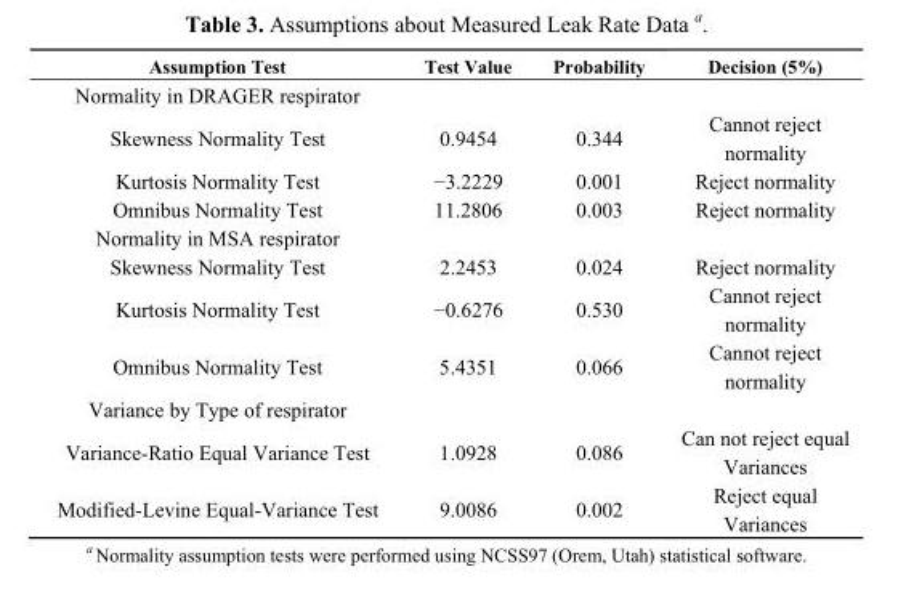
<table><thead><tr><td>Assumption Test</td><td>Test Value</td><td>Probability</td><td>Decision (5%)</td></tr></thead><tbody><tr><td colspan="4">Normality in DRAGER respirator</td></tr><tr><td rowspan="2">Skewness Normality Test</td><td rowspan="2">0.9454</td><td rowspan="2">0.344</td><td>Cannot reject</td></tr><tr><td>normality</td></tr><tr><td>Kurtosis Normality Test</td><td>−3.2229</td><td>0.001</td><td>Reject normality</td></tr><tr><td>Omnibus Normality Test</td><td>11.2806</td><td>0.003</td><td>Reject normality</td></tr><tr><td colspan="4">Normality in MSA respirator</td></tr><tr><td>Skewness Normality Test</td><td>2.2453</td><td>0.024</td><td>Reject normality</td></tr><tr><td rowspan="2">Kurtosis Normality Test</td><td rowspan="2">−0.6276</td><td rowspan="2">0.530</td><td>Cannot reject</td></tr><tr><td>normality</td></tr><tr><td rowspan="2">Omnibus Normality Test</td><td rowspan="2">5.4351</td><td rowspan="2">0.066</td><td>Cannot reject</td></tr><tr><td>normality</td></tr><tr><td colspan="4">Variance by Type of respirator</td></tr><tr><td>Variance-Ratio Equal Variance Test</td><td>1.0928</td><td>0.086</td><td>Can not reject equal Variances</td></tr><tr><td rowspan="2">Modified-Levine Equal-Variance Test</td><td rowspan="2">9.0086</td><td rowspan="2">0.002</td><td>Reject equal</td></tr><tr><td>Variances</td></tr></tbody></table>